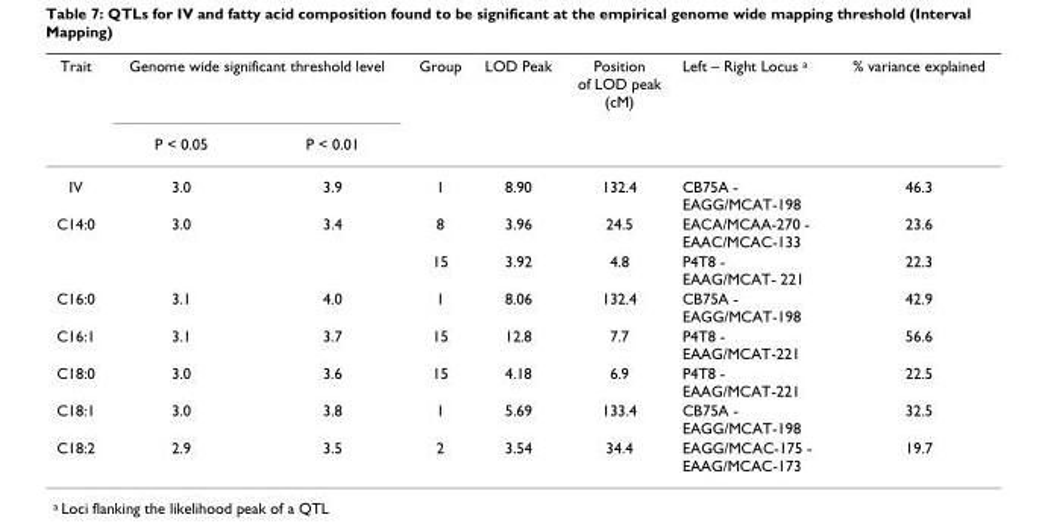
<table><thead><tr><td rowspan="2">Trait</td><td colspan="2">Genome wide significant threshold level</td><td rowspan="2">Group</td><td rowspan="2">LOD Peak</td><td rowspan="2">Position of LOD peak (cM)</td><td rowspan="2">Left – Right Locus <sup>a</sup></td><td rowspan="2">% variance explained</td></tr><tr><td>P &lt; 0.05</td><td>P &lt; 0.01</td></tr></thead><tbody><tr><td>IV</td><td>3.0</td><td>3.9</td><td>1</td><td>8.90</td><td>132.4</td><td>CB75A - EAGG/MCAT-198</td><td>46.3</td></tr><tr><td rowspan="2">C14:0</td><td>3.0</td><td>3.4</td><td>8</td><td>3.96</td><td>24.5</td><td>EACA/MCAA-270 - EAAC/MCAC-133</td><td>23.6</td></tr><tr><td></td><td></td><td>15</td><td>3.92</td><td>4.8</td><td>P4T8 - EAAG/MCAT- 221</td><td>22.3</td></tr><tr><td>C16:0</td><td>3.1</td><td>4.0</td><td>1</td><td>8.06</td><td>132.4</td><td>CB75A - EAGG/MCAT-198</td><td>42.9</td></tr><tr><td>C16:1</td><td>3.1</td><td>3.7</td><td>15</td><td>12.8</td><td>7.7</td><td>P4T8 - EAAG/MCAT-221</td><td>56.6</td></tr><tr><td>C18:0</td><td>3.0</td><td>3.6</td><td>15</td><td>4.18</td><td>6.9</td><td>P4T8 - EAAG/MCAT-221</td><td>22.5</td></tr><tr><td>C18:1</td><td>3.0</td><td>3.8</td><td>1</td><td>5.69</td><td>133.4</td><td>CB75A - EAGG/MCAT-198</td><td>32.5</td></tr><tr><td>C18:2</td><td>2.9</td><td>3.5</td><td>2</td><td>3.54</td><td>34.4</td><td>EAGG/MCAC-175 - EAAG/MCAC-173</td><td>19.7</td></tr></tbody></table>